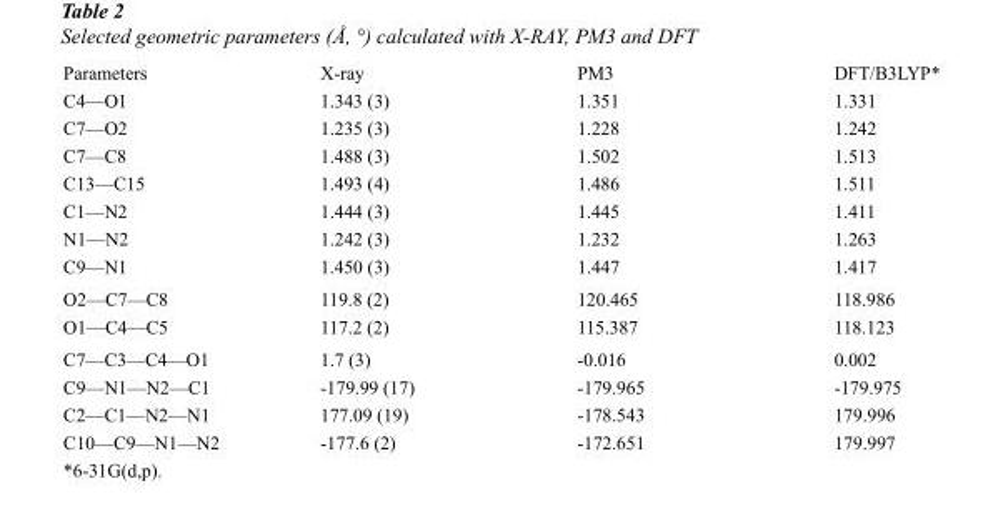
<table><tbody><tr><td>Parameters</td><td>X-ray</td><td>PM3</td><td>DFT/B3LYP*</td></tr><tr><td>C4—O1</td><td>1.343 (3)</td><td>1.351</td><td>1.331</td></tr><tr><td>C7—O2</td><td>1.235 (3)</td><td>1.228</td><td>1.242</td></tr><tr><td>C7—C8</td><td>1.488 (3)</td><td>1.502</td><td>1.513</td></tr><tr><td>C13—C15</td><td>1.493 (4)</td><td>1.486</td><td>1.511</td></tr><tr><td>C1—N2</td><td>1.444 (3)</td><td>1.445</td><td>1.411</td></tr><tr><td>N1—N2</td><td>1.242 (3)</td><td>1.232</td><td>1.263</td></tr><tr><td>C9—N1</td><td>1.450 (3)</td><td>1.447</td><td>1.417</td></tr><tr><td>O2—C7—C8</td><td>119.8 (2)</td><td>120.465</td><td>118.986</td></tr><tr><td>O1—C4—C5</td><td>117.2 (2)</td><td>115.387</td><td>118.123</td></tr><tr><td>C7—C3—C4—O1</td><td>1.7 (3)</td><td>-0.016</td><td>0.002</td></tr><tr><td>C9—N1—N2—C1</td><td>-179.99 (17)</td><td>-179.965</td><td>-179.975</td></tr><tr><td>C2—C1—N2—N1</td><td>177.09 (19)</td><td>-178.543</td><td>179.996</td></tr><tr><td>C10—C9—N1—N2</td><td>-177.6 (2)</td><td>-172.651</td><td>179.997</td></tr></tbody></table>